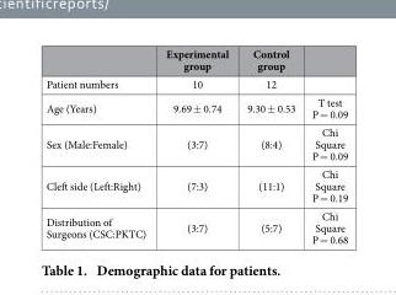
<table><thead><tr><td></td><td>Experimental group</td><td>Control group</td><td></td></tr></thead><tbody><tr><td>Patient numbers</td><td>10</td><td>12</td><td></td></tr><tr><td>Age (Years)</td><td>9.69 ± 0.74</td><td>9.30 ± 0.53</td><td>T test P = 0.09</td></tr><tr><td>Sex (Male:Female)</td><td>(3:7)</td><td>(8:4)</td><td>Chi Square P = 0.09</td></tr><tr><td>Cleft side (Left:Right)</td><td>(7:3)</td><td>(11:1)</td><td>Chi Square P = 0.19</td></tr><tr><td>Distribution of Surgeons (CSC:PKTC)</td><td>(3:7)</td><td>(5:7)</td><td>Chi Square P = 0.68</td></tr></tbody></table>